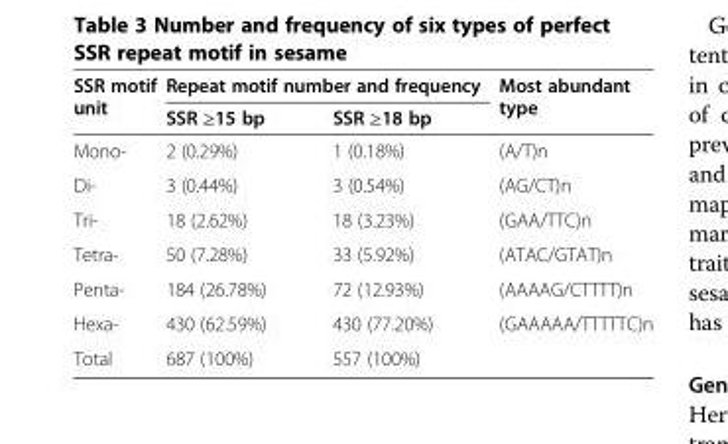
<table><thead><tr><td rowspan="2">SSR motif unit</td><td colspan="2">Repeat motif number and frequency</td><td rowspan="2">Most abundant type</td></tr><tr><td>SSR ≥15 bp</td><td>SSR ≥18 bp</td></tr></thead><tbody><tr><td>Mono-</td><td>2 (0.29%)</td><td>1 (0.18%)</td><td>(A/T)n</td></tr><tr><td>Di-</td><td>3 (0.44%)</td><td>3 (0.54%)</td><td>(AG/CT)n</td></tr><tr><td>Tri-</td><td>18 (2.62%)</td><td>18 (3.23%)</td><td>(GAA/TTC)n</td></tr><tr><td>Tetra-</td><td>50 (7.28%)</td><td>33 (5.92%)</td><td>(ATAC/GTAT)n</td></tr><tr><td>Penta-</td><td>184 (26.78%)</td><td>72 (12.93%)</td><td>(AAAAG/CTTTT)n</td></tr><tr><td>Hexa-</td><td>430 (62.59%)</td><td>430 (77.20%)</td><td>(GAAAAA/TTTTTC)n</td></tr><tr><td>Total</td><td>687 (100%)</td><td>557 (100%)</td><td></td></tr></tbody></table>